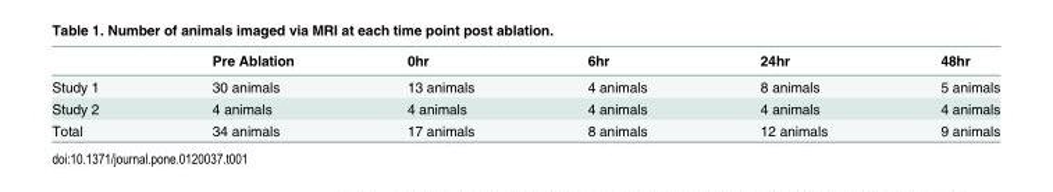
<table><thead><tr><td></td><td>Pre Ablation</td><td>0hr</td><td>6hr</td><td>24hr</td><td>48hr</td></tr></thead><tbody><tr><td>Study 1</td><td>30 animals</td><td>13 animals</td><td>4 animals</td><td>8 animals</td><td>5 animals</td></tr><tr><td>Study 2</td><td>4 animals</td><td>4 animals</td><td>4 animals</td><td>4 animals</td><td>4 animals</td></tr><tr><td>Total</td><td>34 animals</td><td>17 animals</td><td>8 animals</td><td>12 animals</td><td>9 animals</td></tr></tbody></table>